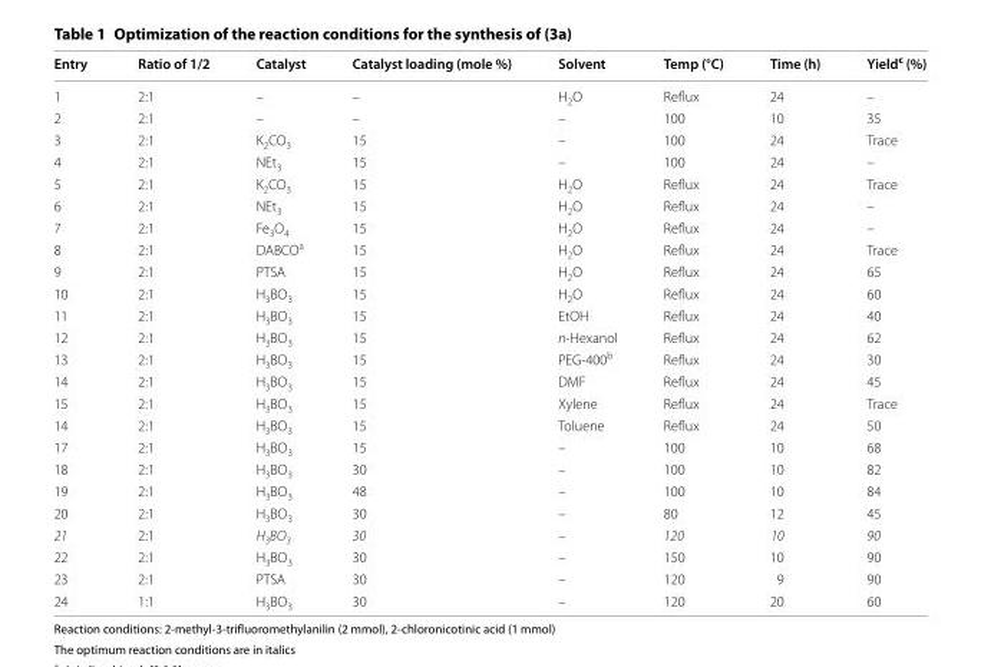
<table><thead><tr><td>Entry</td><td>Ratio of 1/2</td><td>Catalyst</td><td>Catalyst loading (mole %)</td><td>Solvent</td><td>Temp (°C)</td><td>Time (h)</td><td>Yield<sup>c</sup> (%)</td></tr></thead><tbody><tr><td>1</td><td>2:1</td><td>–</td><td>–</td><td>H<sub>2</sub>O</td><td>Reflux</td><td>24</td><td>–</td></tr><tr><td>2</td><td>2:1</td><td>–</td><td>–</td><td>–</td><td>100</td><td>10</td><td>35</td></tr><tr><td>3</td><td>2:1</td><td>K<sub>2</sub>CO<sub>3</sub></td><td>15</td><td>–</td><td>100</td><td>24</td><td>Trace</td></tr><tr><td>4</td><td>2:1</td><td>NEt<sub>3</sub></td><td>15</td><td>–</td><td>100</td><td>24</td><td>–</td></tr><tr><td>5</td><td>2:1</td><td>K<sub>2</sub>CO<sub>3</sub></td><td>15</td><td>H<sub>2</sub>O</td><td>Reflux</td><td>24</td><td>Trace</td></tr><tr><td>6</td><td>2:1</td><td>NEt<sub>3</sub></td><td>15</td><td>H<sub>2</sub>O</td><td>Reflux</td><td>24</td><td>–</td></tr><tr><td>7</td><td>2:1</td><td>Fe<sub>3</sub>O<sub>4</sub></td><td>15</td><td>H<sub>2</sub>O</td><td>Reflux</td><td>24</td><td>–</td></tr><tr><td>8</td><td>2:1</td><td>DABCO<sup>a</sup></td><td>15</td><td>H<sub>2</sub>O</td><td>Reflux</td><td>24</td><td>Trace</td></tr><tr><td>9</td><td>2:1</td><td>PTSA</td><td>15</td><td>H<sub>2</sub>O</td><td>Reflux</td><td>24</td><td>65</td></tr><tr><td>10</td><td>2:1</td><td>H<sub>3</sub>BO<sub>3</sub></td><td>15</td><td>H<sub>2</sub>O</td><td>Reflux</td><td>24</td><td>60</td></tr><tr><td>11</td><td>2:1</td><td>H<sub>3</sub>BO<sub>3</sub></td><td>15</td><td>EtOH</td><td>Reflux</td><td>24</td><td>40</td></tr><tr><td>12</td><td>2:1</td><td>H<sub>3</sub>BO<sub>3</sub></td><td>15</td><td>n-Hexanol</td><td>Reflux</td><td>24</td><td>62</td></tr><tr><td>13</td><td>2:1</td><td>H<sub>3</sub>BO<sub>3</sub></td><td>15</td><td>PEG-400<sup>b</sup></td><td>Reflux</td><td>24</td><td>30</td></tr><tr><td>14</td><td>2:1</td><td>H<sub>3</sub>BO<sub>3</sub></td><td>15</td><td>DMF</td><td>Reflux</td><td>24</td><td>45</td></tr><tr><td>15</td><td>2:1</td><td>H<sub>3</sub>BO<sub>3</sub></td><td>15</td><td>Xylene</td><td>Reflux</td><td>24</td><td>Trace</td></tr><tr><td>14</td><td>2:1</td><td>H<sub>3</sub>BO<sub>3</sub></td><td>15</td><td>Toluene</td><td>Reflux</td><td>24</td><td>50</td></tr><tr><td>17</td><td>2:1</td><td>H<sub>3</sub>BO<sub>3</sub></td><td>15</td><td>–</td><td>100</td><td>10</td><td>68</td></tr><tr><td>18</td><td>2:1</td><td>H<sub>3</sub>BO<sub>3</sub></td><td>30</td><td>–</td><td>100</td><td>10</td><td>82</td></tr><tr><td>19</td><td>2:1</td><td>H<sub>3</sub>BO<sub>3</sub></td><td>48</td><td>–</td><td>100</td><td>10</td><td>84</td></tr><tr><td>20</td><td>2:1</td><td>H<sub>3</sub>BO<sub>3</sub></td><td>30</td><td>–</td><td>80</td><td>12</td><td>45</td></tr><tr><td>21</td><td>2:1</td><td>H<sub>3</sub>BO<sub>3</sub></td><td>30</td><td>–</td><td>120</td><td>10</td><td>90</td></tr><tr><td>22</td><td>2:1</td><td>H<sub>3</sub>BO<sub>3</sub></td><td>30</td><td>–</td><td>150</td><td>10</td><td>90</td></tr><tr><td>23</td><td>2:1</td><td>PTSA</td><td>30</td><td>–</td><td>120</td><td>9</td><td>90</td></tr><tr><td>24</td><td>1:1</td><td>H<sub>3</sub>BO<sub>3</sub></td><td>30</td><td>–</td><td>120</td><td>20</td><td>60</td></tr></tbody></table>